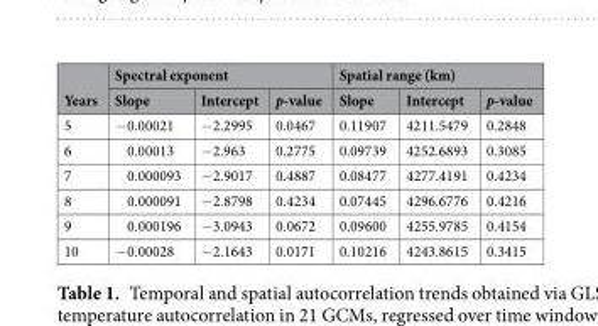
<table><thead><tr><td rowspan="2">Years</td><td colspan="3">Spectral exponent</td><td colspan="3">Spatial range (km)</td></tr><tr><td>Slope</td><td>Intercept</td><td>p-value</td><td>Slope</td><td>Intercept</td><td>p-value</td></tr></thead><tbody><tr><td>5</td><td>−0.00021</td><td>−2.2995</td><td>0.0467</td><td>0.11907</td><td>4211.5479</td><td>0.2848</td></tr><tr><td>6</td><td>0.00013</td><td>−2.963</td><td>0.2775</td><td>0.09739</td><td>4252.6893</td><td>0.3085</td></tr><tr><td>7</td><td>0.000093</td><td>−2.9017</td><td>0.4887</td><td>0.08477</td><td>4277.4191</td><td>0.4234</td></tr><tr><td>8</td><td>0.000091</td><td>−2.8798</td><td>0.4234</td><td>0.07445</td><td>4296.6776</td><td>0.4216</td></tr><tr><td>9</td><td>0.000196</td><td>−3.0943</td><td>0.0672</td><td>0.09600</td><td>4255.9785</td><td>0.4154</td></tr><tr><td>10</td><td>−0.00028</td><td>−2.1643</td><td>0.0171</td><td>0.10216</td><td>4243.8615</td><td>0.3415</td></tr></tbody></table>